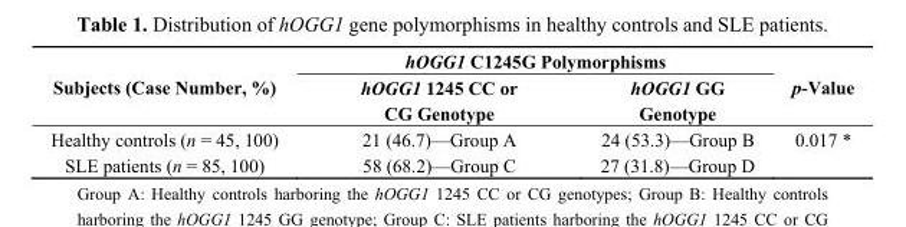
<table><thead><tr><td rowspan="2">Subjects (Case Number, %)</td><td colspan="2">hOGG1 C1245G Polymorphisms</td><td rowspan="2">p-Value</td></tr><tr><td>hOGG1 1245 CC or CG Genotype</td><td>hOGG1 GG Genotype</td></tr></thead><tbody><tr><td>Healthy controls (n = 45, 100)</td><td>21 (46.7)—Group A</td><td>24 (53.3)—Group B</td><td>0.017 *</td></tr><tr><td>SLE patients (n = 85, 100)</td><td>58 (68.2)—Group C</td><td>27 (31.8)—Group D</td><td></td></tr></tbody></table>